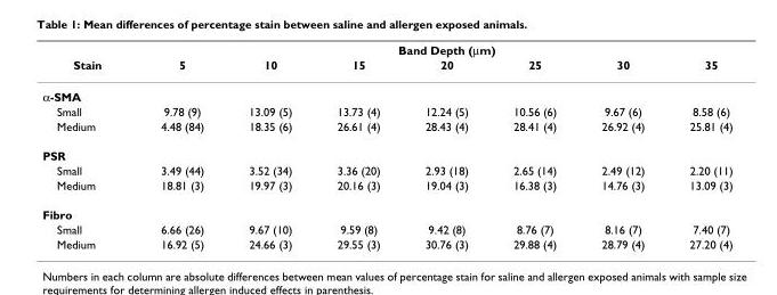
<table><thead><tr><td rowspan="2">Stain</td><td colspan="7">Band Depth (μm)</td></tr><tr><td>5</td><td>10</td><td>15</td><td>20</td><td>25</td><td>30</td><td>35</td></tr></thead><tbody><tr><td colspan="8">α-SMA</td></tr><tr><td>Small</td><td>9.78 (9)</td><td>13.09 (5)</td><td>13.73 (4)</td><td>12.24 (5)</td><td>10.56 (6)</td><td>9.67 (6)</td><td>8.58 (6)</td></tr><tr><td>Medium</td><td>4.48 (84)</td><td>18.35 (6)</td><td>26.61 (4)</td><td>28.43 (4)</td><td>28.41 (4)</td><td>26.92 (4)</td><td>25.81 (4)</td></tr><tr><td colspan="8">PSR</td></tr><tr><td>Small</td><td>3.49 (44)</td><td>3.52 (34)</td><td>3.36 (20)</td><td>2.93 (18)</td><td>2.65 (14)</td><td>2.49 (12)</td><td>2.20 (11)</td></tr><tr><td>Medium</td><td>18.81 (3)</td><td>19.97 (3)</td><td>20.16 (3)</td><td>19.04 (3)</td><td>16.38 (3)</td><td>14.76 (3)</td><td>13.09 (3)</td></tr><tr><td colspan="8">Fibro</td></tr><tr><td>Small</td><td>6.66 (26)</td><td>9.67 (10)</td><td>9.59 (8)</td><td>9.42 (8)</td><td>8.76 (7)</td><td>8.16 (7)</td><td>7.40 (7)</td></tr><tr><td>Medium</td><td>16.92 (5)</td><td>24.66 (3)</td><td>29.55 (3)</td><td>30.76 (3)</td><td>29.88 (4)</td><td>28.79 (4)</td><td>27.20 (4)</td></tr></tbody></table>